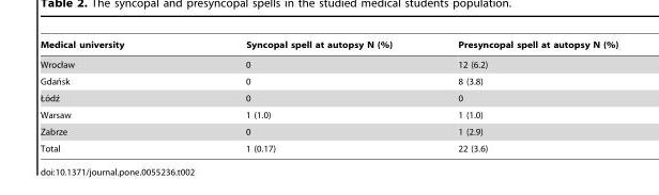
<table><thead><tr><td>Medical university</td><td>Syncopal spell at autopsy N (%)</td><td>Presyncopal spell at autopsy N (%)</td></tr></thead><tbody><tr><td>Wrocław</td><td>0</td><td>12 (6.2)</td></tr><tr><td>Gdan´sk</td><td>0</td><td>8 (3.8)</td></tr><tr><td>Ło´dz´</td><td>0</td><td>0</td></tr><tr><td>Warsaw</td><td>1 (1.0)</td><td>1 (1.0)</td></tr><tr><td>Zabrze</td><td>0</td><td>1 (2.9)</td></tr><tr><td>Total</td><td>1 (0.17)</td><td>22 (3.6)</td></tr></tbody></table>